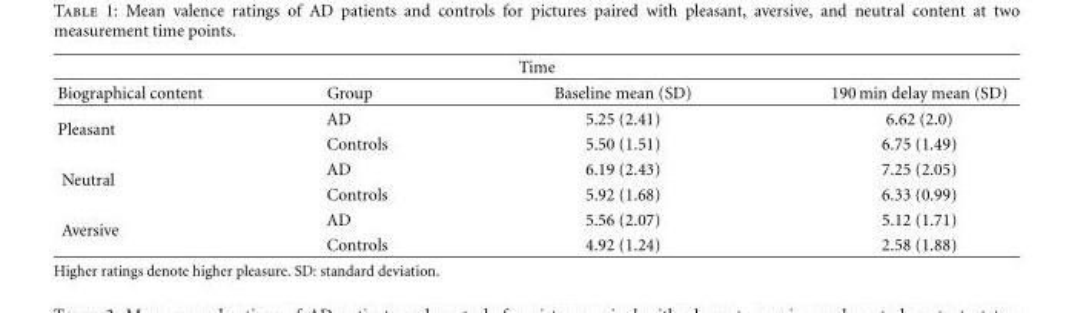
<table><thead><tr><td colspan="4">Time</td></tr><tr><td>Biographical content</td><td>Group</td><td>Baseline mean (SD)</td><td>190 min delay mean (SD)</td></tr></thead><tbody><tr><td rowspan="2">Pleasant</td><td>AD</td><td>5.25 (2.41)</td><td>6.62 (2.0)</td></tr><tr><td>Controls</td><td>5.50 (1.51)</td><td>6.75 (1.49)</td></tr><tr><td rowspan="2">Neutral</td><td>AD</td><td>6.19 (2.43)</td><td>7.25 (2.05)</td></tr><tr><td>Controls</td><td>5.92 (1.68)</td><td>6.33 (0.99)</td></tr><tr><td rowspan="2">Aversive</td><td>AD</td><td>5.56 (2.07)</td><td>5.12 (1.71)</td></tr><tr><td>Controls</td><td>4.92 (1.24)</td><td>2.58 (1.88)</td></tr></tbody></table>